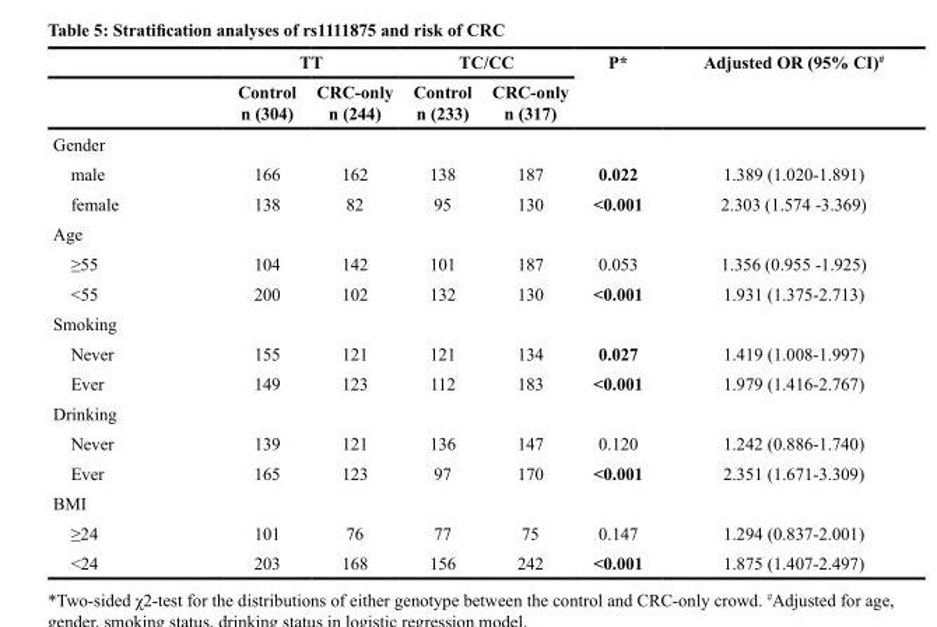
<table><thead><tr><td rowspan="2"></td><td colspan="2">TT</td><td colspan="2">TC/CC</td><td rowspan="2">P*</td><td rowspan="2">Adjusted OR (95% CI)<sup>#</sup></td></tr><tr><td>Control n (304)</td><td>CRC-only n (244)</td><td>Control n (233)</td><td>CRC-only n (317)</td></tr></thead><tbody><tr><td colspan="7">Gender</td></tr><tr><td>male</td><td>166</td><td>162</td><td>138</td><td>187</td><td>0.022</td><td>1.389 (1.020-1.891)</td></tr><tr><td>female</td><td>138</td><td>82</td><td>95</td><td>130</td><td>&lt;0.001</td><td>2.303 (1.574 -3.369)</td></tr><tr><td colspan="7">Age</td></tr><tr><td>≥55</td><td>104</td><td>142</td><td>101</td><td>187</td><td>0.053</td><td>1.356 (0.955 -1.925)</td></tr><tr><td>&lt;55</td><td>200</td><td>102</td><td>132</td><td>130</td><td>&lt;0.001</td><td>1.931 (1.375-2.713)</td></tr><tr><td colspan="7">Smoking</td></tr><tr><td>Never</td><td>155</td><td>121</td><td>121</td><td>134</td><td>0.027</td><td>1.419 (1.008-1.997)</td></tr><tr><td>Ever</td><td>149</td><td>123</td><td>112</td><td>183</td><td>&lt;0.001</td><td>1.979 (1.416-2.767)</td></tr><tr><td colspan="7">Drinking</td></tr><tr><td>Never</td><td>139</td><td>121</td><td>136</td><td>147</td><td>0.120</td><td>1.242 (0.886-1.740)</td></tr><tr><td>Ever</td><td>165</td><td>123</td><td>97</td><td>170</td><td>&lt;0.001</td><td>2.351 (1.671-3.309)</td></tr><tr><td colspan="7">BMI</td></tr><tr><td>≥24</td><td>101</td><td>76</td><td>77</td><td>75</td><td>0.147</td><td>1.294 (0.837-2.001)</td></tr><tr><td>&lt;24</td><td>203</td><td>168</td><td>156</td><td>242</td><td>&lt;0.001</td><td>1.875 (1.407-2.497)</td></tr></tbody></table>